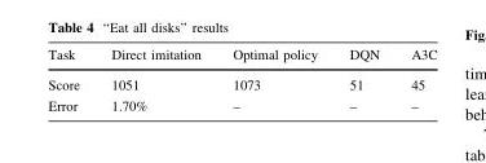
<table><thead><tr><td>Task</td><td>Direct imitation</td><td>Optimal policy</td><td>DQN</td><td>A3C</td></tr></thead><tbody><tr><td>Score</td><td>1051</td><td>1073</td><td>51</td><td>45</td></tr><tr><td>Error</td><td>1.70%</td><td>–</td><td>–</td><td>–</td></tr></tbody></table>